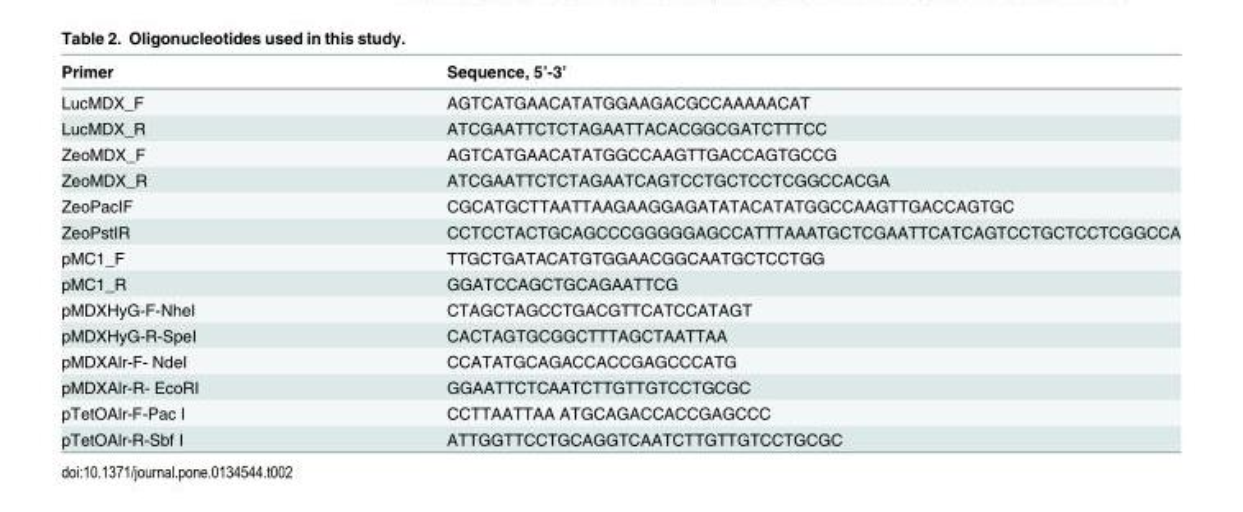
<table><thead><tr><td>Primer</td><td>Sequence, 5’-3’</td></tr></thead><tbody><tr><td>LucMDX_F</td><td>AGTCATGAACATATGGAAGACGCCAAAAACAT</td></tr><tr><td>LucMDX_R</td><td>ATCGAATTCTCTAGAATTACACGGCGATCTTTCC</td></tr><tr><td>ZeoMDX_F</td><td>AGTCATGAACATATGGCCAAGTTGACCAGTGCCG</td></tr><tr><td>ZeoMDX_R</td><td>ATCGAATTCTCTAGAATCAGTCCTGCTCCTCGGCCACGA</td></tr><tr><td>ZeoPacIF</td><td>CGCATGCTTAATTAAGAAGGAGATATACATATGGCCAAGTTGACCAGTGC</td></tr><tr><td>ZeoPstIR</td><td>CCTCCTACTGCAGCCCGGGGGAGCCATTTAAATGCTCGAATTCATCAGTCCTGCTCCTCGGCCA</td></tr><tr><td>pMC1_F</td><td>TTGCTGATACATGTGGAACGGCAATGCTCCTGG</td></tr><tr><td>pMC1_R</td><td>GGATCCAGCTGCAGAATTCG</td></tr><tr><td>pMDXHyG-F-NheI</td><td>CTAGCTAGCCTGACGTTCATCCATAGT</td></tr><tr><td>pMDXHyG-R-SpeI</td><td>CACTAGTGCGGCTTTAGCTAATTAA</td></tr><tr><td>pMDXAlr-F- NdeI</td><td>CCATATGCAGACCACCGAGCCCATG</td></tr><tr><td>pMDXAlr-R- EcoRI</td><td>GGAATTCTCAATCTTGTTGTCCTGCGC</td></tr><tr><td>pTetOAlr-F-Pac I</td><td>CCTTAATTAA ATGCAGACCACCGAGCCC</td></tr><tr><td>pTetOAlr-R-Sbf I</td><td>ATTGGTTCCTGCAGGTCAATCTTGTTGTCCTGCGC</td></tr></tbody></table>